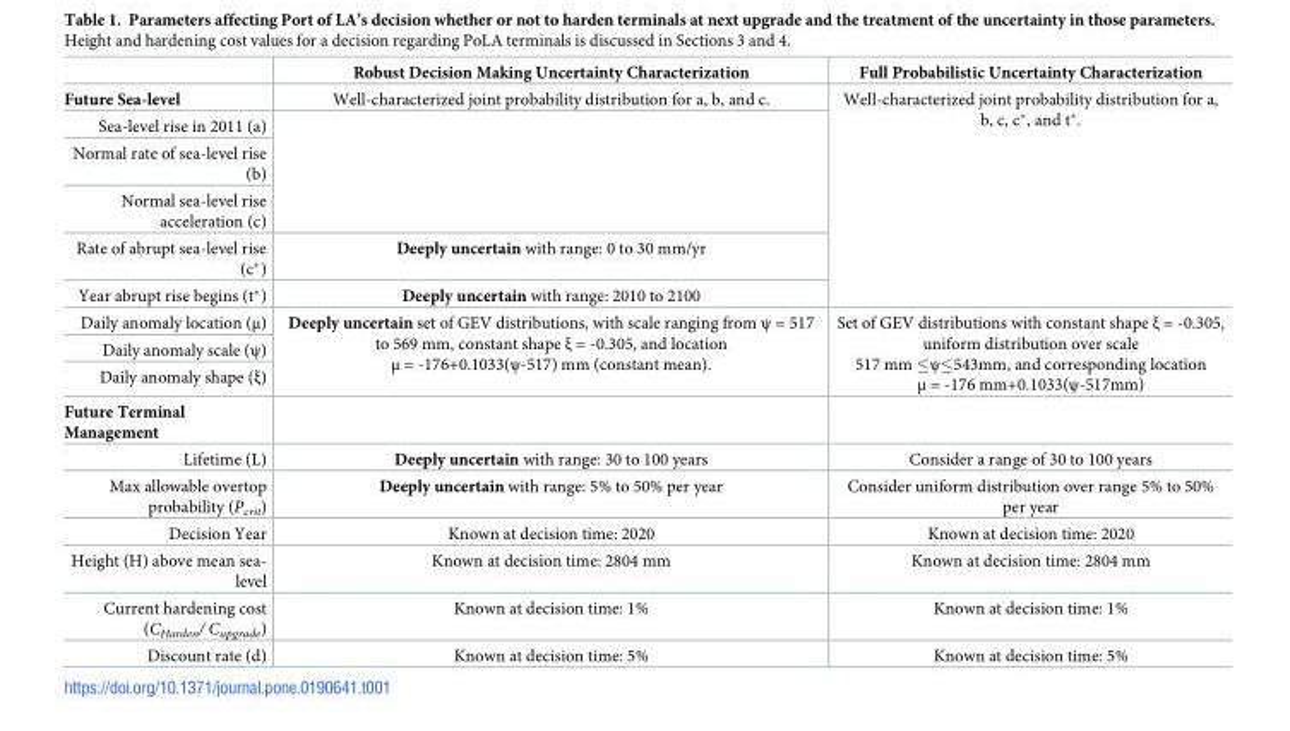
<table><thead><tr><td></td><td>Robust Decision Making Uncertainty Characterization</td><td>Full Probabilistic Uncertainty Characterization</td></tr></thead><tbody><tr><td>Future Sea-level</td><td>Well-characterized joint probability distribution for a, b, and c.</td><td rowspan="6">Well-characterized joint probability distribution for a, b, c, c*, and t*.</td></tr><tr><td>Sea-level rise in 2011 (a)</td><td rowspan="3"></td></tr><tr><td>Normal rate of sea-level rise (b)</td></tr><tr><td>Normal sea-level rise acceleration (c)</td></tr><tr><td>Rate of abrupt sea-level rise (c*)</td><td>Deeply uncertain with range: 0 to 30 mm/yr</td></tr><tr><td>Year abrupt rise begins (t*)</td><td>Deeply uncertain with range: 2010 to 2100</td></tr><tr><td>Daily anomaly location (μ)</td><td rowspan="3">Deeply uncertain set of GEV distributions, with scale ranging from ψ = 517 to 569 mm, constant shape ξ = -0.305, and location μ = -176+0.1033(ψ-517) mm (constant mean).</td><td rowspan="3">Set of GEV distributions with constant shape ξ = -0.305, uniform distribution over scale 517 mm ≤ψ≤543mm, and corresponding location μ = -176 mm+0.1033(ψ-517mm)</td></tr><tr><td>Daily anomaly scale (ψ)</td></tr><tr><td>Daily anomaly shape (ξ)</td></tr><tr><td colspan="3">Future Terminal Management</td></tr><tr><td>Lifetime (L)</td><td>Deeply uncertain with range: 30 to 100 years</td><td>Consider a range of 30 to 100 years</td></tr><tr><td>Max allowable overtop probability (P<sub>crit</sub>)</td><td>Deeply uncertain with range: 5% to 50% per year</td><td>Consider uniform distribution over range 5% to 50% per year</td></tr><tr><td>Decision Year</td><td>Known at decision time: 2020</td><td>Known at decision time: 2020</td></tr><tr><td>Height (H) above mean sea- level</td><td>Known at decision time: 2804 mm</td><td>Known at decision time: 2804 mm</td></tr><tr><td>Current hardening cost (C<sub>Harden</sub>/ C<sub>upgrade</sub>)</td><td>Known at decision time: 1%</td><td>Known at decision time: 1%</td></tr><tr><td>Discount rate (d)</td><td>Known at decision time: 5%</td><td>Known at decision time: 5%</td></tr></tbody></table>